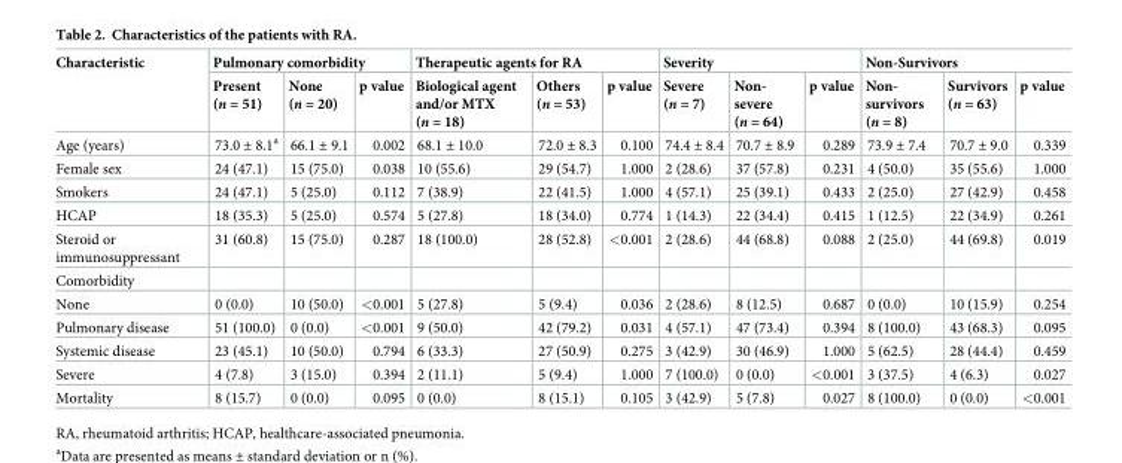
<table><thead><tr><td rowspan="2">Characteristic</td><td colspan="3">Pulmonary comorbidity</td><td colspan="3">Therapeutic agents for RA</td><td colspan="3">Severity</td><td colspan="3">Non-Survivors</td></tr><tr><td>Present (n = 51)</td><td>None (n = 20)</td><td>p value</td><td>Biological agent and/or MTX (n = 18)</td><td>Others (n = 53)</td><td>p value</td><td>Severe (n = 7)</td><td>Non- severe (n = 64)</td><td>p value</td><td>Non- survivors (n = 8)</td><td>Survivors (n = 63)</td><td>p value</td></tr></thead><tbody><tr><td>Age (years)</td><td>73.0 ± 8.1<sup>a</sup></td><td>66.1 ± 9.1</td><td>0.002</td><td>68.1 ± 10.0</td><td>72.0 ± 8.3</td><td>0.100</td><td>74.4 ± 8.4</td><td>70.7 ± 8.9</td><td>0.289</td><td>73.9 ± 7.4</td><td>70.7 ± 9.0</td><td>0.339</td></tr><tr><td>Female sex</td><td>24 (47.1)</td><td>15 (75.0)</td><td>0.038</td><td>10 (55.6)</td><td>29 (54.7)</td><td>1.000</td><td>2 (28.6)</td><td>37 (57.8)</td><td>0.231</td><td>4 (50.0)</td><td>35 (55.6)</td><td>1.000</td></tr><tr><td>Smokers</td><td>24 (47.1)</td><td>5 (25.0)</td><td>0.112</td><td>7 (38.9)</td><td>22 (41.5)</td><td>1.000</td><td>4 (57.1)</td><td>25 (39.1)</td><td>0.433</td><td>2 (25.0)</td><td>27 (42.9)</td><td>0.458</td></tr><tr><td>HCAP</td><td>18 (35.3)</td><td>5 (25.0)</td><td>0.574</td><td>5 (27.8)</td><td>18 (34.0)</td><td>0.774</td><td>1 (14.3)</td><td>22 (34.4)</td><td>0.415</td><td>1 (12.5)</td><td>22 (34.9)</td><td>0.261</td></tr><tr><td>Steroid or immunosuppressant</td><td>31 (60.8)</td><td>15 (75.0)</td><td>0.287</td><td>18 (100.0)</td><td>28 (52.8)</td><td>&lt;0.001</td><td>2 (28.6)</td><td>44 (68.8)</td><td>0.088</td><td>2 (25.0)</td><td>44 (69.8)</td><td>0.019</td></tr><tr><td colspan="13">Comorbidity</td></tr><tr><td>None</td><td>0 (0.0)</td><td>10 (50.0)</td><td>&lt;0.001</td><td>5 (27.8)</td><td>5 (9.4)</td><td>0.036</td><td>2 (28.6)</td><td>8 (12.5)</td><td>0.687</td><td>0 (0.0)</td><td>10 (15.9)</td><td>0.254</td></tr><tr><td>Pulmonary disease</td><td>51 (100.0)</td><td>0 (0.0)</td><td>&lt;0.001</td><td>9 (50.0)</td><td>42 (79.2)</td><td>0.031</td><td>4 (57.1)</td><td>47 (73.4)</td><td>0.394</td><td>8 (100.0)</td><td>43 (68.3)</td><td>0.095</td></tr><tr><td>Systemic disease</td><td>23 (45.1)</td><td>10 (50.0)</td><td>0.794</td><td>6 (33.3)</td><td>27 (50.9)</td><td>0.275</td><td>3 (42.9)</td><td>30 (46.9)</td><td>1.000</td><td>5 (62.5)</td><td>28 (44.4)</td><td>0.459</td></tr><tr><td>Severe</td><td>4 (7.8)</td><td>3 (15.0)</td><td>0.394</td><td>2 (11.1)</td><td>5 (9.4)</td><td>1.000</td><td>7 (100.0)</td><td>0 (0.0)</td><td>&lt;0.001</td><td>3 (37.5)</td><td>4 (6.3)</td><td>0.027</td></tr><tr><td>Mortality</td><td>8 (15.7)</td><td>0 (0.0)</td><td>0.095</td><td>0 (0.0)</td><td>8 (15.1)</td><td>0.105</td><td>3 (42.9)</td><td>5 (7.8)</td><td>0.027</td><td>8 (100.0)</td><td>0 (0.0)</td><td>&lt;0.001</td></tr></tbody></table>